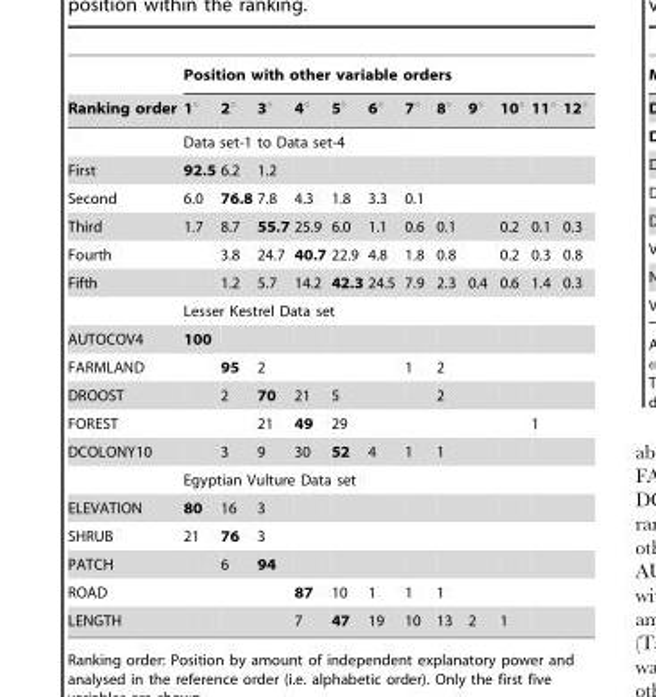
<table><thead><tr><td rowspan="2">Ranking order</td><td colspan="12">Position with other variable orders</td></tr><tr><td>1°</td><td>2°</td><td>3°</td><td>4°</td><td>5°</td><td>6°</td><td>7°</td><td>8°</td><td>9°</td><td>10°</td><td>11°</td><td>12°</td></tr></thead><tbody><tr><td></td><td colspan="12">Data set-1 to Data set-4</td></tr><tr><td>First</td><td>92.5</td><td>6.2</td><td>1.2</td><td></td><td></td><td></td><td></td><td></td><td></td><td></td><td></td><td></td></tr><tr><td>Second</td><td>6.0</td><td>76.8</td><td>7.8</td><td>4.3</td><td>1.8</td><td>3.3</td><td>0.1</td><td></td><td></td><td></td><td></td><td></td></tr><tr><td>Third</td><td>1.7</td><td>8.7</td><td>55.7</td><td>25.9</td><td>6.0</td><td>1.1</td><td>0.6</td><td>0.1</td><td></td><td>0.2</td><td>0.1</td><td>0.3</td></tr><tr><td>Fourth</td><td></td><td>3.8</td><td>24.7</td><td>40.7</td><td>22.9</td><td>4.8</td><td>1.8</td><td>0.8</td><td></td><td>0.2</td><td>0.3</td><td>0.8</td></tr><tr><td rowspan="2">Fifth</td><td></td><td>1.2</td><td>5.7</td><td>14.2</td><td>42.3</td><td>24.5</td><td>7.9</td><td>2.3</td><td>0.4</td><td>0.6</td><td>1.4</td><td>0.3</td></tr><tr><td colspan="12">Lesser Kestrel Data set</td></tr><tr><td>AUTOCOV4</td><td>100</td><td></td><td></td><td></td><td></td><td></td><td></td><td></td><td></td><td></td><td></td><td></td></tr><tr><td>FARMLAND</td><td></td><td>95</td><td>2</td><td></td><td></td><td></td><td>1</td><td>2</td><td></td><td></td><td></td><td></td></tr><tr><td>DROOST</td><td></td><td>2</td><td>70</td><td>21</td><td>5</td><td></td><td></td><td>2</td><td></td><td></td><td></td><td></td></tr><tr><td>FOREST</td><td></td><td></td><td>21</td><td>49</td><td>29</td><td></td><td></td><td></td><td></td><td></td><td>1</td><td></td></tr><tr><td rowspan="2">DCOLONY10</td><td></td><td>3</td><td>9</td><td>30</td><td>52</td><td>4</td><td>1</td><td>1</td><td></td><td></td><td></td><td></td></tr><tr><td colspan="12">Egyptian Vulture Data set</td></tr><tr><td>ELEVATION</td><td>80</td><td>16</td><td>3</td><td></td><td></td><td></td><td></td><td></td><td></td><td></td><td></td><td></td></tr><tr><td>SHRUB</td><td>21</td><td>76</td><td>3</td><td></td><td></td><td></td><td></td><td></td><td></td><td></td><td></td><td></td></tr><tr><td>PATCH</td><td></td><td>6</td><td>94</td><td></td><td></td><td></td><td></td><td></td><td></td><td></td><td></td><td></td></tr><tr><td>ROAD</td><td></td><td></td><td></td><td>87</td><td>10</td><td>1</td><td>1</td><td>1</td><td></td><td></td><td></td><td></td></tr><tr><td>LENGTH</td><td></td><td></td><td></td><td>7</td><td>47</td><td>19</td><td>10</td><td>13</td><td>2</td><td>1</td><td></td><td></td></tr></tbody></table>